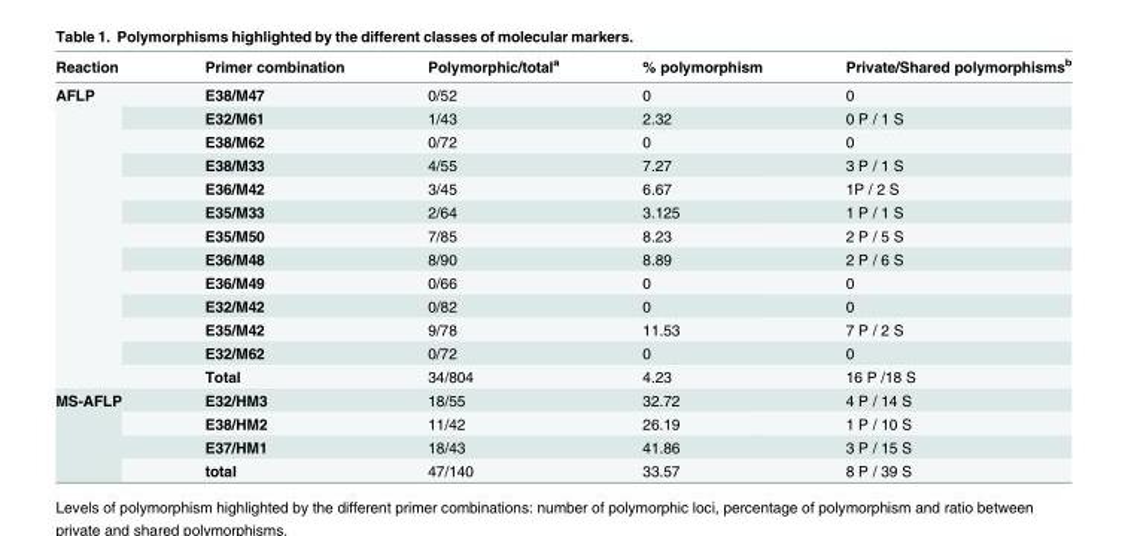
<table><thead><tr><td>Reaction</td><td>Primer combination</td><td>Polymorphic/total<sup>a</sup></td><td>% polymorphism</td><td>Private/Shared polymorphisms<sup>b</sup></td></tr></thead><tbody><tr><td rowspan="13">AFLP</td><td>E38/M47</td><td>0/52</td><td>0</td><td>0</td></tr><tr><td>E32/M61</td><td>1/43</td><td>2.32</td><td>0 P / 1 S</td></tr><tr><td>E38/M62</td><td>0/72</td><td>0</td><td>0</td></tr><tr><td>E38/M33</td><td>4/55</td><td>7.27</td><td>3 P / 1 S</td></tr><tr><td>E36/M42</td><td>3/45</td><td>6.67</td><td>1P / 2 S</td></tr><tr><td>E35/M33</td><td>2/64</td><td>3.125</td><td>1 P / 1 S</td></tr><tr><td>E35/M50</td><td>7/85</td><td>8.23</td><td>2 P / 5 S</td></tr><tr><td>E36/M48</td><td>8/90</td><td>8.89</td><td>2 P / 6 S</td></tr><tr><td>E36/M49</td><td>0/66</td><td>0</td><td>0</td></tr><tr><td>E32/M42</td><td>0/82</td><td>0</td><td>0</td></tr><tr><td>E35/M42</td><td>9/78</td><td>11.53</td><td>7 P / 2 S</td></tr><tr><td>E32/M62</td><td>0/72</td><td>0</td><td>0</td></tr><tr><td>Total</td><td>34/804</td><td>4.23</td><td>16 P /18 S</td></tr><tr><td rowspan="4">MS-AFLP</td><td>E32/HM3</td><td>18/55</td><td>32.72</td><td>4 P / 14 S</td></tr><tr><td>E38/HM2</td><td>11/42</td><td>26.19</td><td>1 P / 10 S</td></tr><tr><td>E37/HM1</td><td>18/43</td><td>41.86</td><td>3 P / 15 S</td></tr><tr><td>total</td><td>47/140</td><td>33.57</td><td>8 P / 39 S</td></tr></tbody></table>